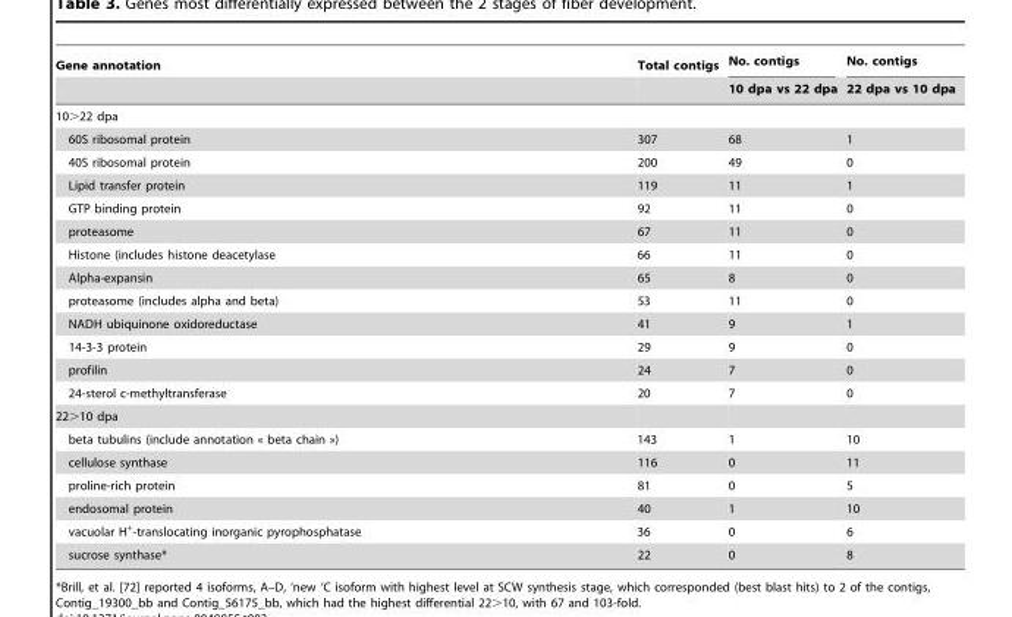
<table><thead><tr><td rowspan="2">Gene annotation</td><td rowspan="2">Total contigs</td><td rowspan="2">No. contigs 10 dpa vs 22 dpa</td><td rowspan="2">No. contigs 22 dpa vs 10 dpa</td></tr><tr></tr></thead><tbody><tr><td colspan="4">10&gt;22 dpa</td></tr><tr><td>60S ribosomal protein</td><td>307</td><td>68</td><td>1</td></tr><tr><td>40S ribosomal protein</td><td>200</td><td>49</td><td>0</td></tr><tr><td>Lipid transfer protein</td><td>119</td><td>11</td><td>1</td></tr><tr><td>GTP binding protein</td><td>92</td><td>11</td><td>0</td></tr><tr><td>proteasome</td><td>67</td><td>11</td><td>0</td></tr><tr><td>Histone (includes histone deacetylase</td><td>66</td><td>11</td><td>0</td></tr><tr><td>Alpha-expansin</td><td>65</td><td>8</td><td>0</td></tr><tr><td>proteasome (includes alpha and beta)</td><td>53</td><td>11</td><td>0</td></tr><tr><td>NADH ubiquinone oxidoreductase</td><td>41</td><td>9</td><td>1</td></tr><tr><td>14-3-3 protein</td><td>29</td><td>9</td><td>0</td></tr><tr><td>profilin</td><td>24</td><td>7</td><td>0</td></tr><tr><td>24-sterol c-methyltransferase</td><td>20</td><td>7</td><td>0</td></tr><tr><td colspan="4">22&gt;10 dpa</td></tr><tr><td>beta tubulins (include annotation « beta chain »)</td><td>143</td><td>1</td><td>10</td></tr><tr><td>cellulose synthase</td><td>116</td><td>0</td><td>11</td></tr><tr><td>proline-rich protein</td><td>81</td><td>0</td><td>5</td></tr><tr><td>endosomal protein</td><td>40</td><td>1</td><td>10</td></tr><tr><td>vacuolar H<sup>+</sup>-translocating inorganic pyrophosphatase</td><td>36</td><td>0</td><td>6</td></tr><tr><td>sucrose synthase*</td><td>22</td><td>0</td><td>8</td></tr></tbody></table>